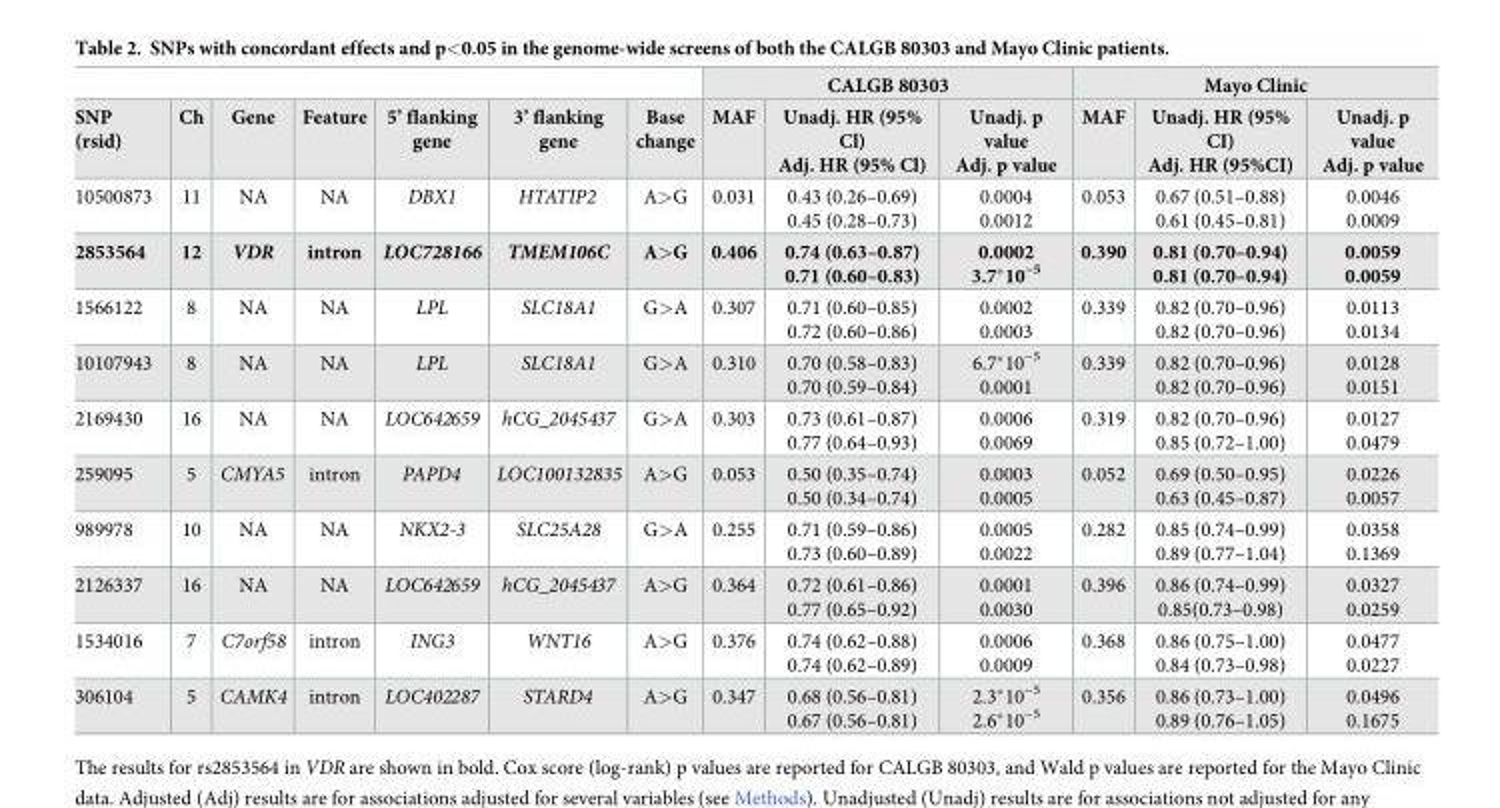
<table><thead><tr><td rowspan="2">SNP (rsid)</td><td rowspan="2">Ch</td><td rowspan="2">Gene</td><td rowspan="2">Feature</td><td rowspan="2">5’ flanking gene</td><td rowspan="2">3’ flanking gene</td><td rowspan="2">Base change</td><td colspan="3">CALGB 80303</td><td colspan="3">Mayo Clinic</td></tr><tr><td>MAF</td><td>Unadj. HR (95% Cl) Adj. HR (95% Cl)</td><td>Unadj. p value Adj. p value</td><td>MAF</td><td>Unadj. HR (95% CI) Adj. HR (95%CI)</td><td>Unadj. p value Adj. p value</td></tr></thead><tbody><tr><td>10500873</td><td>11</td><td>NA</td><td>NA</td><td>DBX1</td><td>HTATIP2</td><td>A&gt;G</td><td>0.031</td><td>0.43 (0.26–0.69) 0.45 (0.28–0.73)</td><td>0.0004 0.0012</td><td>0.053</td><td>0.67 (0.51–0.88) 0.61 (0.45–0.81)</td><td>0.0046 0.0009</td></tr><tr><td>2853564</td><td>12</td><td>VDR</td><td>intron</td><td>LOC728166</td><td>TMEM106C</td><td>A&gt;G</td><td>0.406</td><td>0.74 (0.63–0.87) 0.71 (0.60–0.83)</td><td>0.0002 3.7*10<sup>−5</sup></td><td>0.390</td><td>0.81 (0.70–0.94) 0.81 (0.70–0.94)</td><td>0.0059 0.0059</td></tr><tr><td>1566122</td><td>8</td><td>NA</td><td>NA</td><td>LPL</td><td>SLC18A1</td><td>G&gt;A</td><td>0.307</td><td>0.71 (0.60–0.85) 0.72 (0.60–0.86)</td><td>0.0002 0.0003</td><td>0.339</td><td>0.82 (0.70–0.96) 0.82 (0.70–0.96)</td><td>0.0113 0.0134</td></tr><tr><td>10107943</td><td>8</td><td>NA</td><td>NA</td><td>LPL</td><td>SLC18A1</td><td>G&gt;A</td><td>0.310</td><td>0.70 (0.58–0.83) 0.70 (0.59–0.84)</td><td>6.7*10<sup>−5</sup> 0.0001</td><td>0.339</td><td>0.82 (0.70–0.96) 0.82 (0.70–0.96)</td><td>0.0128 0.0151</td></tr><tr><td>2169430</td><td>16</td><td>NA</td><td>NA</td><td>LOC642659</td><td>hCG_2045437</td><td>G&gt;A</td><td>0.303</td><td>0.73 (0.61–0.87) 0.77 (0.64–0.93)</td><td>0.0006 0.0069</td><td>0.319</td><td>0.82 (0.70–0.96) 0.85 (0.72–1.00)</td><td>0.0127 0.0479</td></tr><tr><td>259095</td><td>5</td><td>CMYA5</td><td>intron</td><td>PAPD4</td><td>LOC100132835</td><td>A&gt;G</td><td>0.053</td><td>0.50 (0.35–0.74) 0.50 (0.34–0.74)</td><td>0.0003 0.0005</td><td>0.052</td><td>0.69 (0.50–0.95) 0.63 (0.45–0.87)</td><td>0.0226 0.0057</td></tr><tr><td>989978</td><td>10</td><td>NA</td><td>NA</td><td>NKX2-3</td><td>SLC25A28</td><td>G&gt;A</td><td>0.255</td><td>0.71 (0.59–0.86) 0.73 (0.60–0.89)</td><td>0.0005 0.0022</td><td>0.282</td><td>0.85 (0.74–0.99) 0.89 (0.77–1.04)</td><td>0.0358 0.1369</td></tr><tr><td>2126337</td><td>16</td><td>NA</td><td>NA</td><td>LOC642659</td><td>hCG_2045437</td><td>A&gt;G</td><td>0.364</td><td>0.72 (0.61–0.86) 0.77 (0.65–0.92)</td><td>0.0001 0.0030</td><td>0.396</td><td>0.86 (0.74–0.99) 0.85(0.73–0.98)</td><td>0.0327 0.0259</td></tr><tr><td>1534016</td><td>7</td><td>C7orf58</td><td>intron</td><td>ING3</td><td>WNT16</td><td>A&gt;G</td><td>0.376</td><td>0.74 (0.62–0.88) 0.74 (0.62–0.89)</td><td>0.0006 0.0009</td><td>0.368</td><td>0.86 (0.75–1.00) 0.84 (0.73–0.98)</td><td>0.0477 0.0227</td></tr><tr><td>306104</td><td>5</td><td>CAMK4</td><td>intron</td><td>LOC402287</td><td>STARD4</td><td>A&gt;G</td><td>0.347</td><td>0.68 (0.56–0.81) 0.67 (0.56–0.81)</td><td>2.3*10<sup>−5</sup> 2.6*10<sup>−5</sup></td><td>0.356</td><td>0.86 (0.73–1.00) 0.89 (0.76–1.05)</td><td>0.0496 0.1675</td></tr></tbody></table>